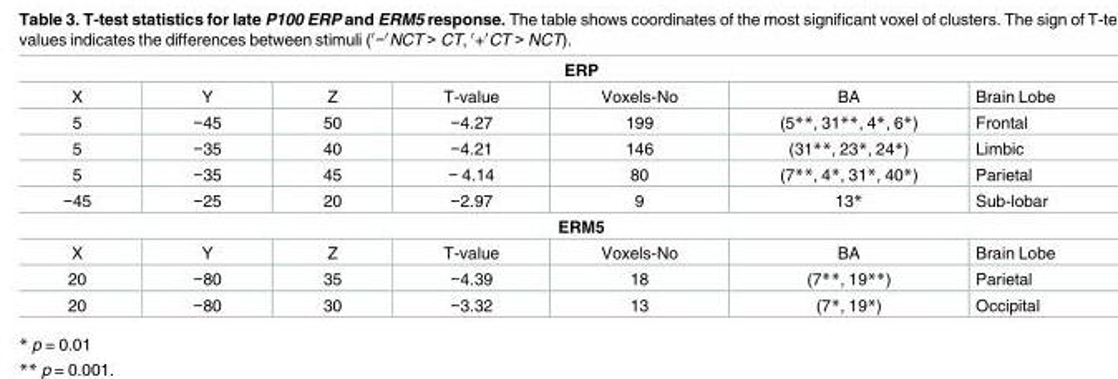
<table><tbody><tr><td colspan="7">ERP</td></tr><tr><td>X</td><td>Y</td><td>Z</td><td>T-value</td><td>Voxels-No</td><td>BA</td><td>Brain Lobe</td></tr><tr><td>5</td><td>−45</td><td>50</td><td>−4.27</td><td>199</td><td>(5**, 31**, 4*, 6*)</td><td>Frontal</td></tr><tr><td>5</td><td>−35</td><td>40</td><td>−4.21</td><td>146</td><td>(31**, 23*, 24*)</td><td>Limbic</td></tr><tr><td>5</td><td>−35</td><td>45</td><td>− 4.14</td><td>80</td><td>(7**, 4*, 31*, 40*)</td><td>Parietal</td></tr><tr><td>−45</td><td>−25</td><td>20</td><td>−2.97</td><td>9</td><td>13*</td><td>Sub-lobar</td></tr><tr><td colspan="7">ERM5</td></tr><tr><td>X</td><td>Y</td><td>Z</td><td>T-value</td><td>Voxels-No</td><td>BA</td><td>Brain Lobe</td></tr><tr><td>20</td><td>−80</td><td>35</td><td>−4.39</td><td>18</td><td>(7**, 19**)</td><td>Parietal</td></tr><tr><td>20</td><td>−80</td><td>30</td><td>−3.32</td><td>13</td><td>(7*, 19*)</td><td>Occipital</td></tr></tbody></table>